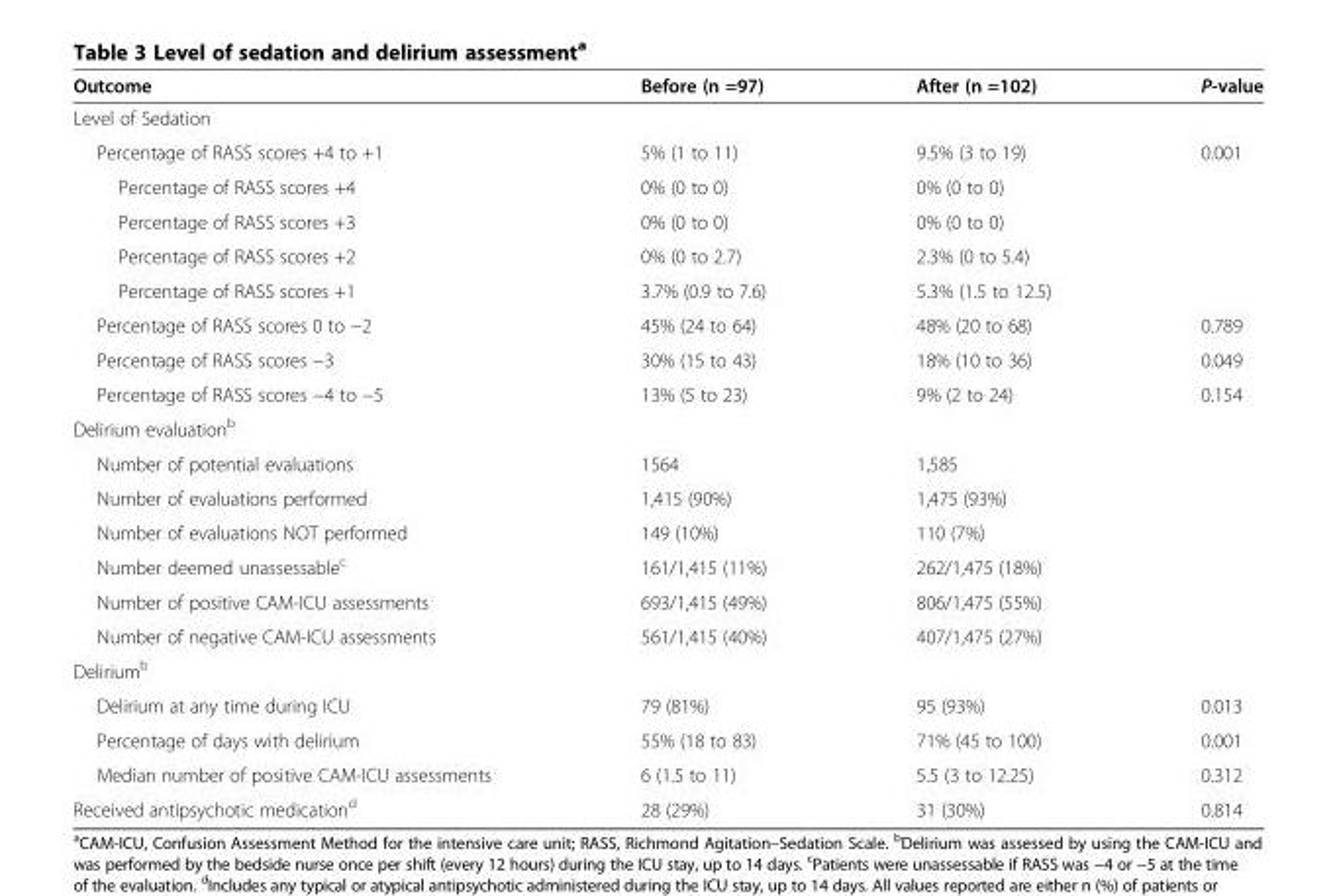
<table><thead><tr><td>Outcome</td><td>Before (n =97)</td><td>After (n =102)</td><td>P-value</td></tr></thead><tbody><tr><td colspan="4">Level of Sedation</td></tr><tr><td>Percentage of RASS scores +4 to +1</td><td>5% (1 to 11)</td><td>9.5% (3 to 19)</td><td>0.001</td></tr><tr><td>Percentage of RASS scores +4</td><td>0% (0 to 0)</td><td>0% (0 to 0)</td><td rowspan="3"></td></tr><tr><td>Percentage of RASS scores +3</td><td>0% (0 to 0)</td><td>0% (0 to 0)</td></tr><tr><td>Percentage of RASS scores +2</td><td>0% (0 to 2.7)</td><td>2.3% (0 to 5.4)</td></tr><tr><td>Percentage of RASS scores +1</td><td>3.7% (0.9 to 7.6)</td><td>5.3% (1.5 to 12.5)</td><td></td></tr><tr><td>Percentage of RASS scores 0 to −2</td><td>45% (24 to 64)</td><td>48% (20 to 68)</td><td>0.789</td></tr><tr><td>Percentage of RASS scores −3</td><td>30% (15 to 43)</td><td>18% (10 to 36)</td><td>0.049</td></tr><tr><td>Percentage of RASS scores −4 to −5</td><td>13% (5 to 23)</td><td>9% (2 to 24)</td><td>0.154</td></tr><tr><td colspan="3">Delirium evaluation<sup>b</sup></td><td rowspan="8"></td></tr><tr><td>Number of potential evaluations</td><td>1564</td><td>1,585</td></tr><tr><td>Number of evaluations performed</td><td>1,415 (90%)</td><td>1,475 (93%)</td></tr><tr><td>Number of evaluations NOT performed</td><td>149 (10%)</td><td>110 (7%)</td></tr><tr><td>Number deemed unassessable<sup>c</sup></td><td>161/1,415 (11%)</td><td>262/1,475 (18%)</td></tr><tr><td>Number of positive CAM-ICU assessments</td><td>693/1,415 (49%)</td><td>806/1,475 (55%)</td></tr><tr><td>Number of negative CAM-ICU assessments</td><td>561/1,415 (40%)</td><td>407/1,475 (27%)</td></tr><tr><td colspan="3">Delirium<sup>b</sup></td></tr><tr><td>Delirium at any time during ICU</td><td>79 (81%)</td><td>95 (93%)</td><td>0.013</td></tr><tr><td>Percentage of days with delirium</td><td>55% (18 to 83)</td><td>71% (45 to 100)</td><td>0.001</td></tr><tr><td>Median number of positive CAM-ICU assessments</td><td>6 (1.5 to 11)</td><td>5.5 (3 to 12.25)</td><td>0.312</td></tr><tr><td>Received antipsychotic medication<sup>d</sup></td><td>28 (29%)</td><td>31 (30%)</td><td>0.814</td></tr></tbody></table>